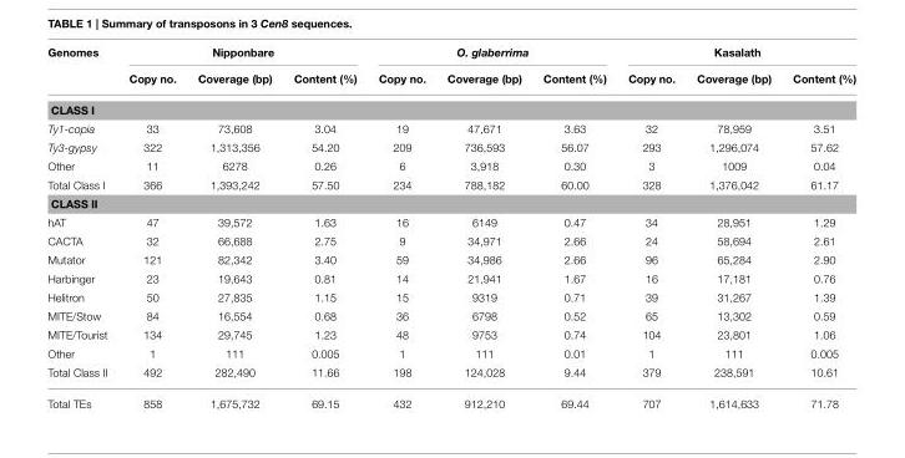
<table><thead><tr><td rowspan="2">Genomes</td><td colspan="3">Nipponbare</td><td colspan="3">O. glaberrima</td><td colspan="3">Kasalath</td></tr><tr><td>Copy no.</td><td>Coverage (bp)</td><td>Content (%)</td><td>Copy no.</td><td>Coverage (bp)</td><td>Content (%)</td><td>Copy no.</td><td>Coverage (bp)</td><td>Content (%)</td></tr></thead><tbody><tr><td colspan="10">CLASS I</td></tr><tr><td>Ty1-copia</td><td>33</td><td>73,608</td><td>3.04</td><td>19</td><td>47,671</td><td>3.63</td><td>32</td><td>78,959</td><td>3.51</td></tr><tr><td>Ty3-gypsy</td><td>322</td><td>1,313,356</td><td>54.20</td><td>209</td><td>736,593</td><td>56.07</td><td>293</td><td>1,296,074</td><td>57.62</td></tr><tr><td>Other</td><td>11</td><td>6278</td><td>0.26</td><td>6</td><td>3,918</td><td>0.30</td><td>3</td><td>1009</td><td>0.04</td></tr><tr><td>Total Class I</td><td>366</td><td>1,393,242</td><td>57.50</td><td>234</td><td>788,182</td><td>60.00</td><td>328</td><td>1,376,042</td><td>61.17</td></tr><tr><td colspan="10">CLASS II</td></tr><tr><td>hAT</td><td>47</td><td>39,572</td><td>1.63</td><td>16</td><td>6149</td><td>0.47</td><td>34</td><td>28,951</td><td>1.29</td></tr><tr><td>CACTA</td><td>32</td><td>66,688</td><td>2.75</td><td>9</td><td>34,971</td><td>2.66</td><td>24</td><td>58,694</td><td>2.61</td></tr><tr><td>Mutator</td><td>121</td><td>82,342</td><td>3.40</td><td>59</td><td>34,986</td><td>2.66</td><td>96</td><td>65,284</td><td>2.90</td></tr><tr><td>Harbinger</td><td>23</td><td>19,643</td><td>0.81</td><td>14</td><td>21,941</td><td>1.67</td><td>16</td><td>17,181</td><td>0.76</td></tr><tr><td>Helitron</td><td>50</td><td>27,835</td><td>1.15</td><td>15</td><td>9319</td><td>0.71</td><td>39</td><td>31,267</td><td>1.39</td></tr><tr><td>MITE/Stow</td><td>84</td><td>16,554</td><td>0.68</td><td>36</td><td>6798</td><td>0.52</td><td>65</td><td>13,302</td><td>0.59</td></tr><tr><td>MITE/Tourist</td><td>134</td><td>29,745</td><td>1.23</td><td>48</td><td>9753</td><td>0.74</td><td>104</td><td>23,801</td><td>1.06</td></tr><tr><td>Other</td><td>1</td><td>111</td><td>0.005</td><td>1</td><td>111</td><td>0.01</td><td>1</td><td>111</td><td>0.005</td></tr><tr><td>Total Class II</td><td>492</td><td>282,490</td><td>11.66</td><td>198</td><td>124,028</td><td>9.44</td><td>379</td><td>238,591</td><td>10.61</td></tr><tr><td>Total TEs</td><td>858</td><td>1,675,732</td><td>69.15</td><td>432</td><td>912,210</td><td>69.44</td><td>707</td><td>1,614,633</td><td>71.78</td></tr></tbody></table>